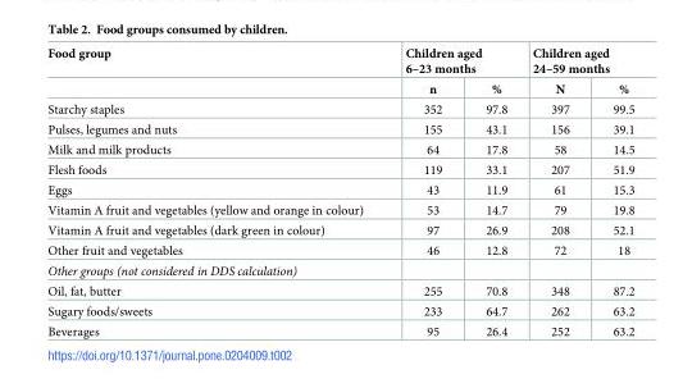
<table><thead><tr><td rowspan="2">Food group</td><td colspan="2">Children aged 6–23 months</td><td colspan="2">Children aged 24–59 months</td></tr><tr><td>n</td><td>%</td><td>N</td><td>%</td></tr></thead><tbody><tr><td>Starchy staples</td><td>352</td><td>97.8</td><td>397</td><td>99.5</td></tr><tr><td>Pulses, legumes and nuts</td><td>155</td><td>43.1</td><td>156</td><td>39.1</td></tr><tr><td>Milk and milk products</td><td>64</td><td>17.8</td><td>58</td><td>14.5</td></tr><tr><td>Flesh foods</td><td>119</td><td>33.1</td><td>207</td><td>51.9</td></tr><tr><td>Eggs</td><td>43</td><td>11.9</td><td>61</td><td>15.3</td></tr><tr><td>Vitamin A fruit and vegetables (yellow and orange in colour)</td><td>53</td><td>14.7</td><td>79</td><td>19.8</td></tr><tr><td>Vitamin A fruit and vegetables (dark green in colour)</td><td>97</td><td>26.9</td><td>208</td><td>52.1</td></tr><tr><td>Other fruit and vegetables</td><td>46</td><td>12.8</td><td>72</td><td>18</td></tr><tr><td colspan="5">Other groups (not considered in DDS calculation)</td></tr><tr><td>Oil, fat, butter</td><td>255</td><td>70.8</td><td>348</td><td>87.2</td></tr><tr><td>Sugary foods/sweets</td><td>233</td><td>64.7</td><td>262</td><td>63.2</td></tr><tr><td>Beverages</td><td>95</td><td>26.4</td><td>252</td><td>63.2</td></tr></tbody></table>